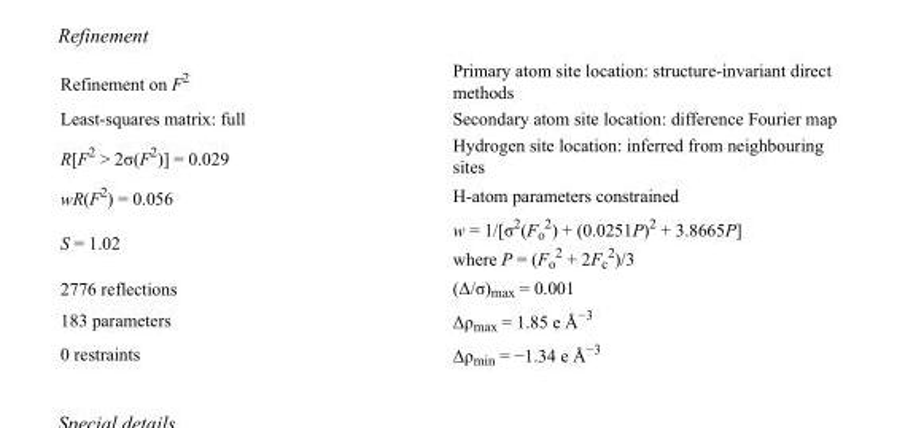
<table><tbody><tr><td>Refinement on F<sup>2</sup></td><td>Primary atom site location: structure-invariant direct methods</td></tr><tr><td>Least-squares matrix: full</td><td>Secondary atom site location: difference Fourier map</td></tr><tr><td>R[F<sup>2</sup> &gt; 2σ(F<sup>2</sup>)] = 0.029</td><td>Hydrogen site location: inferred from neighbouring sites</td></tr><tr><td>wR(F<sup>2</sup>) = 0.056</td><td>H-atom parameters constrained</td></tr><tr><td>S = 1.02</td><td>w = 1/[σ<sup>2</sup>(F<sub>o</sub> <sup>2</sup>) + (0.0251P)<sup>2</sup> + 3.8665P] where P = (F<sub>o</sub> <sup>2</sup> + 2F<sub>c</sub> <sup>2</sup>)/3</td></tr><tr><td>2776 reflections</td><td>(Δ/σ)<sub>max</sub> = 0.001</td></tr><tr><td>183 parameters</td><td>Δρ<sub>max</sub> = 1.85 e Å<sup>−3</sup></td></tr><tr><td>0 restraints</td><td>Δρ<sub>min</sub> = −1.34 e Å<sup>−3</sup></td></tr></tbody></table>